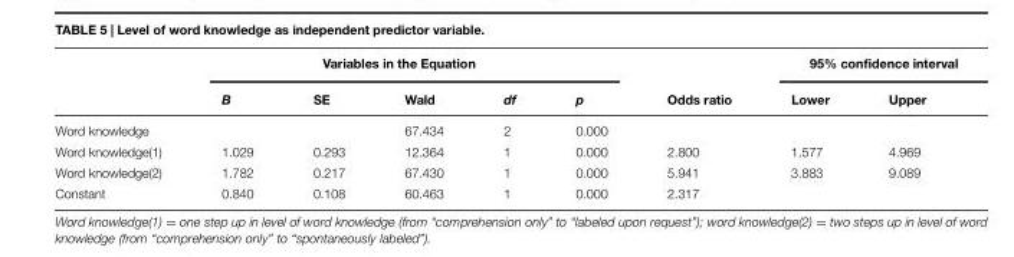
<table><thead><tr><td rowspan="2"></td><td colspan="5">Variables in the Equation</td><td rowspan="2">Odds ratio</td><td colspan="2">95% confidence interval</td></tr><tr><td>B</td><td>SE</td><td>Wald</td><td>df</td><td>p</td><td>Lower</td><td>Upper</td></tr></thead><tbody><tr><td>Word knowledge</td><td></td><td></td><td>67.434</td><td>2</td><td>0.000</td><td></td><td></td><td></td></tr><tr><td>Word knowledge(1)</td><td>1.029</td><td>0.293</td><td>12.364</td><td>1</td><td>0.000</td><td>2.800</td><td>1.577</td><td>4.969</td></tr><tr><td>Word knowledge(2)</td><td>1.782</td><td>0.217</td><td>67.430</td><td>1</td><td>0.000</td><td>5.941</td><td>3.883</td><td>9.089</td></tr><tr><td>Constant</td><td>0.840</td><td>0.108</td><td>60.463</td><td>1</td><td>0.000</td><td>2.317</td><td></td><td></td></tr></tbody></table>